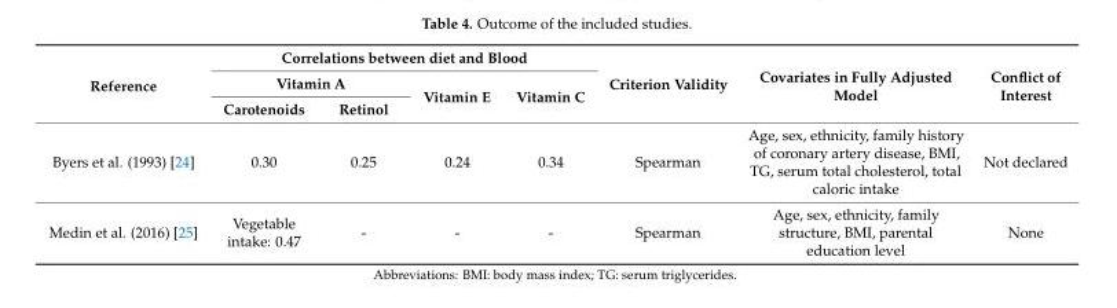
<table><thead><tr><td rowspan="3">Reference</td><td colspan="4">Correlations between diet and Blood</td><td rowspan="3">Criterion Validity</td><td rowspan="3">Covariates in Fully Adjusted Model</td><td rowspan="3">Conflict of Interest</td></tr><tr><td colspan="2">Vitamin A</td><td rowspan="2">Vitamin E</td><td rowspan="2">Vitamin C</td></tr><tr><td>Carotenoids</td><td>Retinol</td></tr></thead><tbody><tr><td>Byers et al. (1993) [24]</td><td>0.30</td><td>0.25</td><td>0.24</td><td>0.34</td><td>Spearman</td><td>Age, sex, ethnicity, family history of coronary artery disease, BMI, TG, serum total cholesterol, total caloric intake</td><td>Not declared</td></tr><tr><td>Medin et al. (2016) [25]</td><td>Vegetable intake: 0.47</td><td>-</td><td>-</td><td>-</td><td>Spearman</td><td>Age, sex, ethnicity, family structure, BMI, parental education level</td><td>None</td></tr></tbody></table>